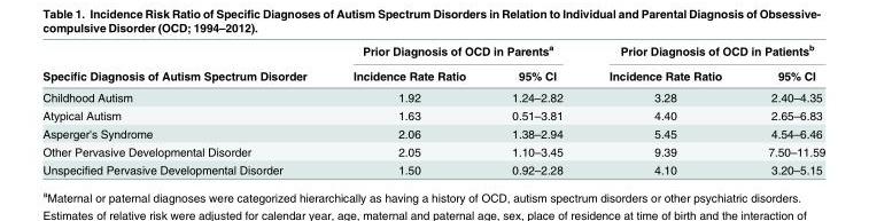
<table><thead><tr><td rowspan="2">Specific Diagnosis of Autism Spectrum Disorder</td><td colspan="2">Prior Diagnosis of OCD in Parents<sup>a</sup></td><td colspan="2">Prior Diagnosis of OCD in Patients<sup>b</sup></td></tr><tr><td>Incidence Rate Ratio</td><td>95% CI</td><td>Incidence Rate Ratio</td><td>95% CI</td></tr></thead><tbody><tr><td>Childhood Autism</td><td>1.92</td><td>1.24–2.82</td><td>3.28</td><td>2.40–4.35</td></tr><tr><td>Atypical Autism</td><td>1.63</td><td>0.51–3.81</td><td>4.40</td><td>2.65–6.83</td></tr><tr><td>Asperger&#x27;s Syndrome</td><td>2.06</td><td>1.38–2.94</td><td>5.45</td><td>4.54–6.46</td></tr><tr><td>Other Pervasive Developmental Disorder</td><td>2.05</td><td>1.10–3.45</td><td>9.39</td><td>7.50–11.59</td></tr><tr><td>Unspecified Pervasive Developmental Disorder</td><td>1.50</td><td>0.92–2.28</td><td>4.10</td><td>3.20–5.15</td></tr></tbody></table>